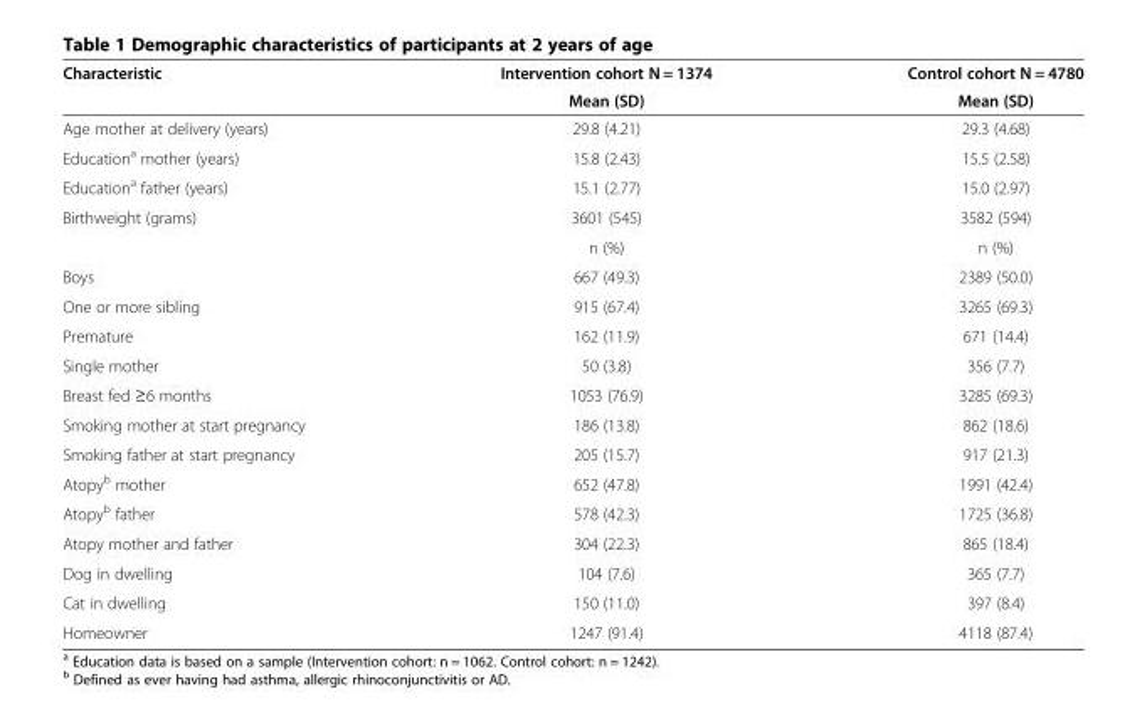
<table><thead><tr><td rowspan="2">Characteristic</td><td rowspan="2">Intervention cohort N = 1374 Mean (SD)</td><td rowspan="2">Control cohort N = 4780 Mean (SD)</td></tr><tr></tr></thead><tbody><tr><td>Age mother at delivery (years)</td><td>29.8 (4.21)</td><td>29.3 (4.68)</td></tr><tr><td>Education<sup>a</sup> mother (years)</td><td>15.8 (2.43)</td><td>15.5 (2.58)</td></tr><tr><td>Education<sup>a</sup> father (years)</td><td>15.1 (2.77)</td><td>15.0 (2.97)</td></tr><tr><td rowspan="2">Birthweight (grams)</td><td>3601 (545)</td><td>3582 (594)</td></tr><tr><td>n (%)</td><td>n (%)</td></tr><tr><td>Boys</td><td>667 (49.3)</td><td>2389 (50.0)</td></tr><tr><td>One or more sibling</td><td>915 (67.4)</td><td>3265 (69.3)</td></tr><tr><td>Premature</td><td>162 (11.9)</td><td>671 (14.4)</td></tr><tr><td>Single mother</td><td>50 (3.8)</td><td>356 (7.7)</td></tr><tr><td>Breast fed ≥6 months</td><td>1053 (76.9)</td><td>3285 (69.3)</td></tr><tr><td>Smoking mother at start pregnancy</td><td>186 (13.8)</td><td>862 (18.6)</td></tr><tr><td>Smoking father at start pregnancy</td><td>205 (15.7)</td><td>917 (21.3)</td></tr><tr><td>Atopy<sup>b</sup> mother</td><td>652 (47.8)</td><td>1991 (42.4)</td></tr><tr><td>Atopy<sup>b</sup> father</td><td>578 (42.3)</td><td>1725 (36.8)</td></tr><tr><td>Atopy mother and father</td><td>304 (22.3)</td><td>865 (18.4)</td></tr><tr><td>Dog in dwelling</td><td>104 (7.6)</td><td>365 (7.7)</td></tr><tr><td>Cat in dwelling</td><td>150 (11.0)</td><td>397 (8.4)</td></tr><tr><td>Homeowner</td><td>1247 (91.4)</td><td>4118 (87.4)</td></tr></tbody></table>